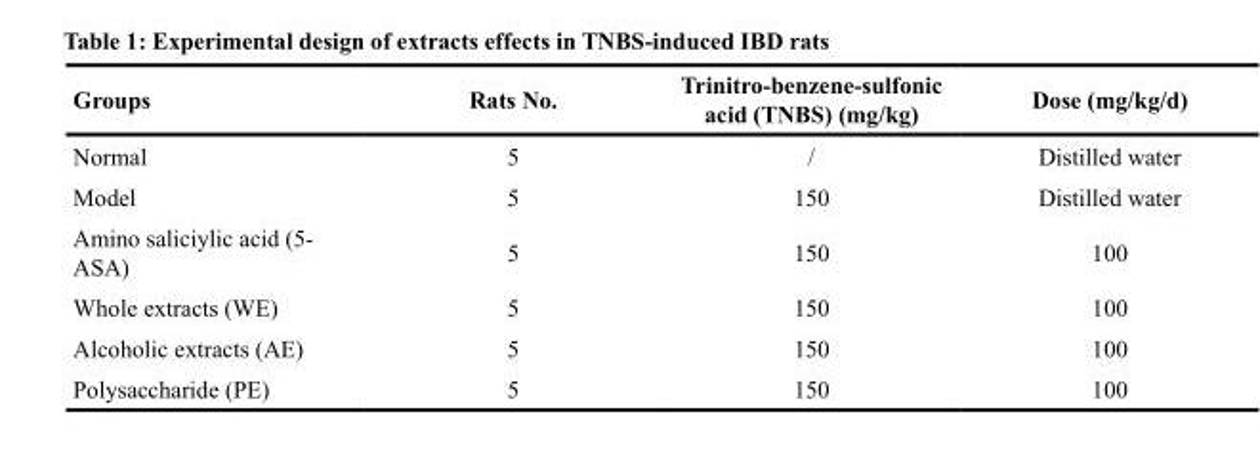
<table><thead><tr><td>Groups</td><td>Rats No.</td><td>Trinitro-benzene-sulfonic acid (TNBS) (mg/kg)</td><td>Dose (mg/kg/d)</td></tr></thead><tbody><tr><td>Normal</td><td>5</td><td>/</td><td>Distilled water</td></tr><tr><td>Model</td><td>5</td><td>150</td><td>Distilled water</td></tr><tr><td>Amino saliciylic acid (5- ASA)</td><td>5</td><td>150</td><td>100</td></tr><tr><td>Whole extracts (WE)</td><td>5</td><td>150</td><td>100</td></tr><tr><td>Alcoholic extracts (AE)</td><td>5</td><td>150</td><td>100</td></tr><tr><td>Polysaccharide (PE)</td><td>5</td><td>150</td><td>100</td></tr></tbody></table>